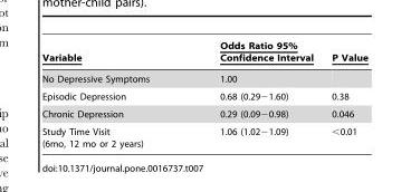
<table><thead><tr><td>Variable</td><td>Odds Ratio 95% Confidence Interval</td><td>P Value</td></tr></thead><tbody><tr><td>No Depressive Symptoms</td><td>1.00</td><td></td></tr><tr><td>Episodic Depression</td><td>0.68 (0.29−1.60)</td><td>0.38</td></tr><tr><td>Chronic Depression</td><td>0.29 (0.09−0.98)</td><td>0.046</td></tr><tr><td>Study Time Visit (6mo, 12 mo or 2 years)</td><td>1.06 (1.02−1.09)</td><td>&lt;0.01</td></tr></tbody></table>